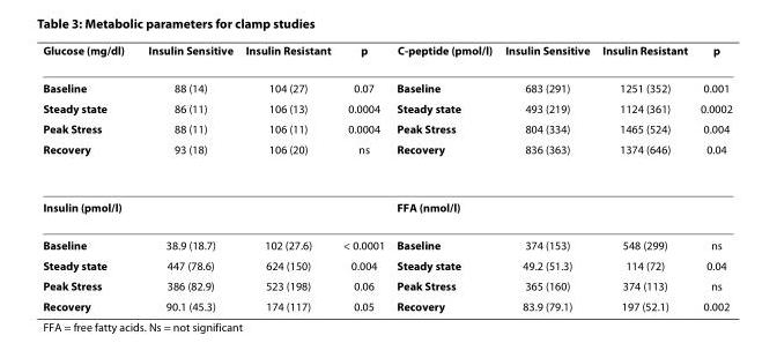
<table><thead><tr><td>Glucose (mg/dl)</td><td>Insulin Sensitive</td><td>Insulin Resistant</td><td>p</td><td>C-peptide (pmol/l)</td><td>Insulin Sensitive</td><td>Insulin Resistant</td><td>p</td></tr></thead><tbody><tr><td>Baseline</td><td>88 (14)</td><td>104 (27)</td><td>0.07</td><td>Baseline</td><td>683 (291)</td><td>1251 (352)</td><td>0.001</td></tr><tr><td>Steady state</td><td>86 (11)</td><td>106 (13)</td><td>0.0004</td><td>Steady state</td><td>493 (219)</td><td>1124 (361)</td><td>0.0002</td></tr><tr><td>Peak Stress</td><td>88 (11)</td><td>106 (11)</td><td>0.0004</td><td>Peak Stress</td><td>804 (334)</td><td>1465 (524)</td><td>0.004</td></tr><tr><td>Recovery</td><td>93 (18)</td><td>106 (20)</td><td>ns</td><td>Recovery</td><td>836 (363)</td><td>1374 (646)</td><td>0.04</td></tr><tr><td>Insulin (pmol/l)</td><td></td><td></td><td></td><td>FFA (nmol/l)</td><td></td><td></td><td></td></tr><tr><td>Baseline</td><td>38.9 (18.7)</td><td>102 (27.6)</td><td>&lt; 0.0001</td><td>Baseline</td><td>374 (153)</td><td>548 (299)</td><td>ns</td></tr><tr><td>Steady state</td><td>447 (78.6)</td><td>624 (150)</td><td>0.004</td><td>Steady state</td><td>49.2 (51.3)</td><td>114 (72)</td><td>0.04</td></tr><tr><td>Peak Stress</td><td>386 (82.9)</td><td>523 (198)</td><td>0.06</td><td>Peak Stress</td><td>365 (160)</td><td>374 (113)</td><td>ns</td></tr><tr><td>Recovery</td><td>90.1 (45.3)</td><td>174 (117)</td><td>0.05</td><td>Recovery</td><td>83.9 (79.1)</td><td>197 (52.1)</td><td>0.002</td></tr></tbody></table>